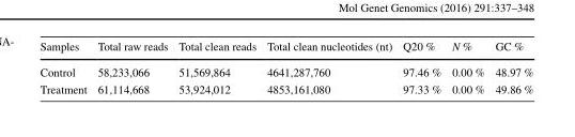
<table><thead><tr><td>Samples</td><td>Total raw reads</td><td>Total clean reads</td><td>Total clean nucleotides (nt)</td><td>Q20 %</td><td>N %</td><td>GC %</td></tr></thead><tbody><tr><td>Control</td><td>58,233,066</td><td>51,569,864</td><td>4641,287,760</td><td>97.46 %</td><td>0.00 %</td><td>48.97 %</td></tr><tr><td>Treatment</td><td>61,114,668</td><td>53,924,012</td><td>4853,161,080</td><td>97.33 %</td><td>0.00 %</td><td>49.86 %</td></tr></tbody></table>